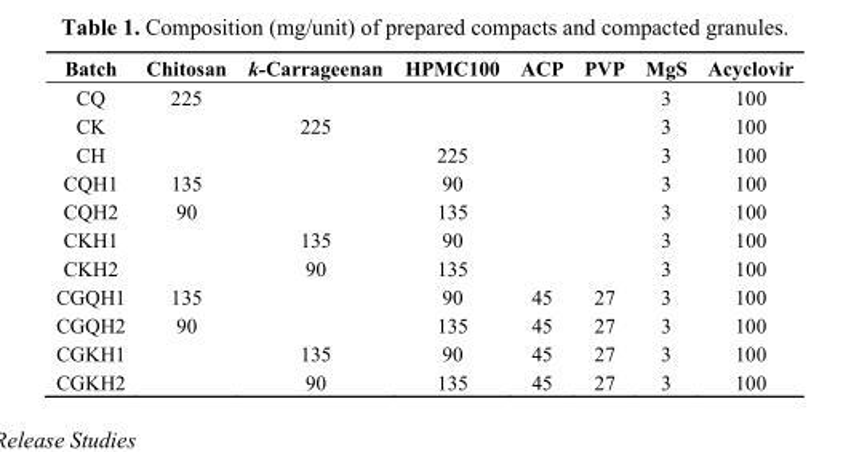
<table><thead><tr><td>Batch</td><td>Chitosan</td><td>k-Carrageenan</td><td>HPMC100</td><td>ACP</td><td>PVP</td><td>MgS</td><td>Acyclovir</td></tr></thead><tbody><tr><td>CQ</td><td>225</td><td></td><td></td><td></td><td></td><td>3</td><td>100</td></tr><tr><td>CK</td><td></td><td>225</td><td></td><td></td><td></td><td>3</td><td>100</td></tr><tr><td>CH</td><td></td><td></td><td>225</td><td></td><td></td><td>3</td><td>100</td></tr><tr><td>CQH1</td><td>135</td><td></td><td>90</td><td></td><td></td><td>3</td><td>100</td></tr><tr><td>CQH2</td><td>90</td><td></td><td>135</td><td></td><td></td><td>3</td><td>100</td></tr><tr><td>CKH1</td><td></td><td>135</td><td>90</td><td></td><td></td><td>3</td><td>100</td></tr><tr><td>CKH2</td><td></td><td>90</td><td>135</td><td></td><td></td><td>3</td><td>100</td></tr><tr><td>CGQH1</td><td>135</td><td></td><td>90</td><td>45</td><td>27</td><td>3</td><td>100</td></tr><tr><td>CGQH2</td><td>90</td><td></td><td>135</td><td>45</td><td>27</td><td>3</td><td>100</td></tr><tr><td>CGKH1</td><td></td><td>135</td><td>90</td><td>45</td><td>27</td><td>3</td><td>100</td></tr><tr><td>CGKH2</td><td></td><td>90</td><td>135</td><td>45</td><td>27</td><td>3</td><td>100</td></tr></tbody></table>